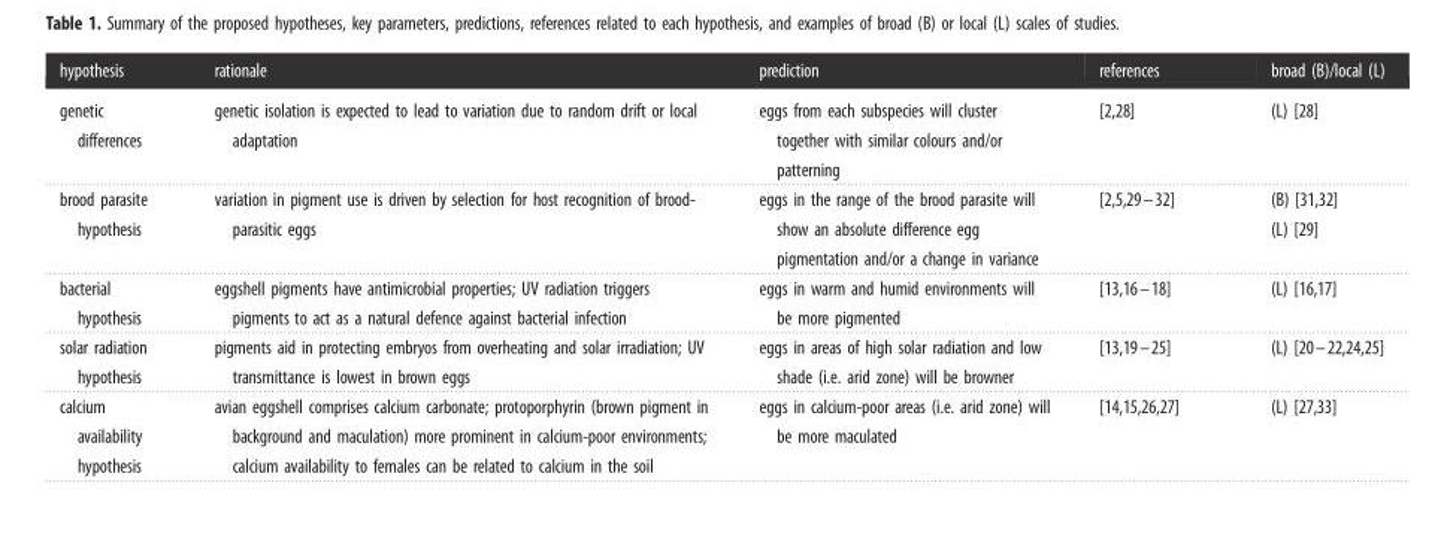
<table><thead><tr><td>hypothesis</td><td>rationale</td><td>prediction</td><td>references</td><td>broad (B)/local (L)</td></tr></thead><tbody><tr><td>genetic differences</td><td>genetic isolation is expected to lead to variation due to random drift or local adaptation</td><td>eggs from each subspecies will cluster together with similar colours and/or patterning</td><td>[2,28]</td><td>(L) [28]</td></tr><tr><td>brood parasite hypothesis</td><td>variation in pigment use is driven by selection for host recognition of brood- parasitic eggs</td><td>eggs in the range of the brood parasite will show an absolute difference egg pigmentation and/or a change in variance</td><td>[2,5,29–32]</td><td>(B) [31,32] (L) [29]</td></tr><tr><td>bacterial hypothesis</td><td>eggshell pigments have antimicrobial properties; UV radiation triggers pigments to act as a natural defence against bacterial infection</td><td>eggs in warm and humid environments will be more pigmented</td><td>[13,16–18]</td><td>(L) [16,17]</td></tr><tr><td>solar radiation hypothesis</td><td>pigments aid in protecting embryos from overheating and solar irradiation; UV transmittance is lowest in brown eggs</td><td>eggs in areas of high solar radiation and low shade (i.e. arid zone) will be browner</td><td>[13,19–25]</td><td>(L) [20–22,24,25]</td></tr><tr><td>calcium availability hypothesis</td><td>avian eggshell comprises calcium carbonate; protoporphyrin (brown pigment in background and maculation) more prominent in calcium-poor environments; calcium availability to females can be related to calcium in the soil</td><td>eggs in calcium-poor areas (i.e. arid zone) will be more maculated</td><td>[14,15,26,27]</td><td>(L) [27,33]</td></tr></tbody></table>